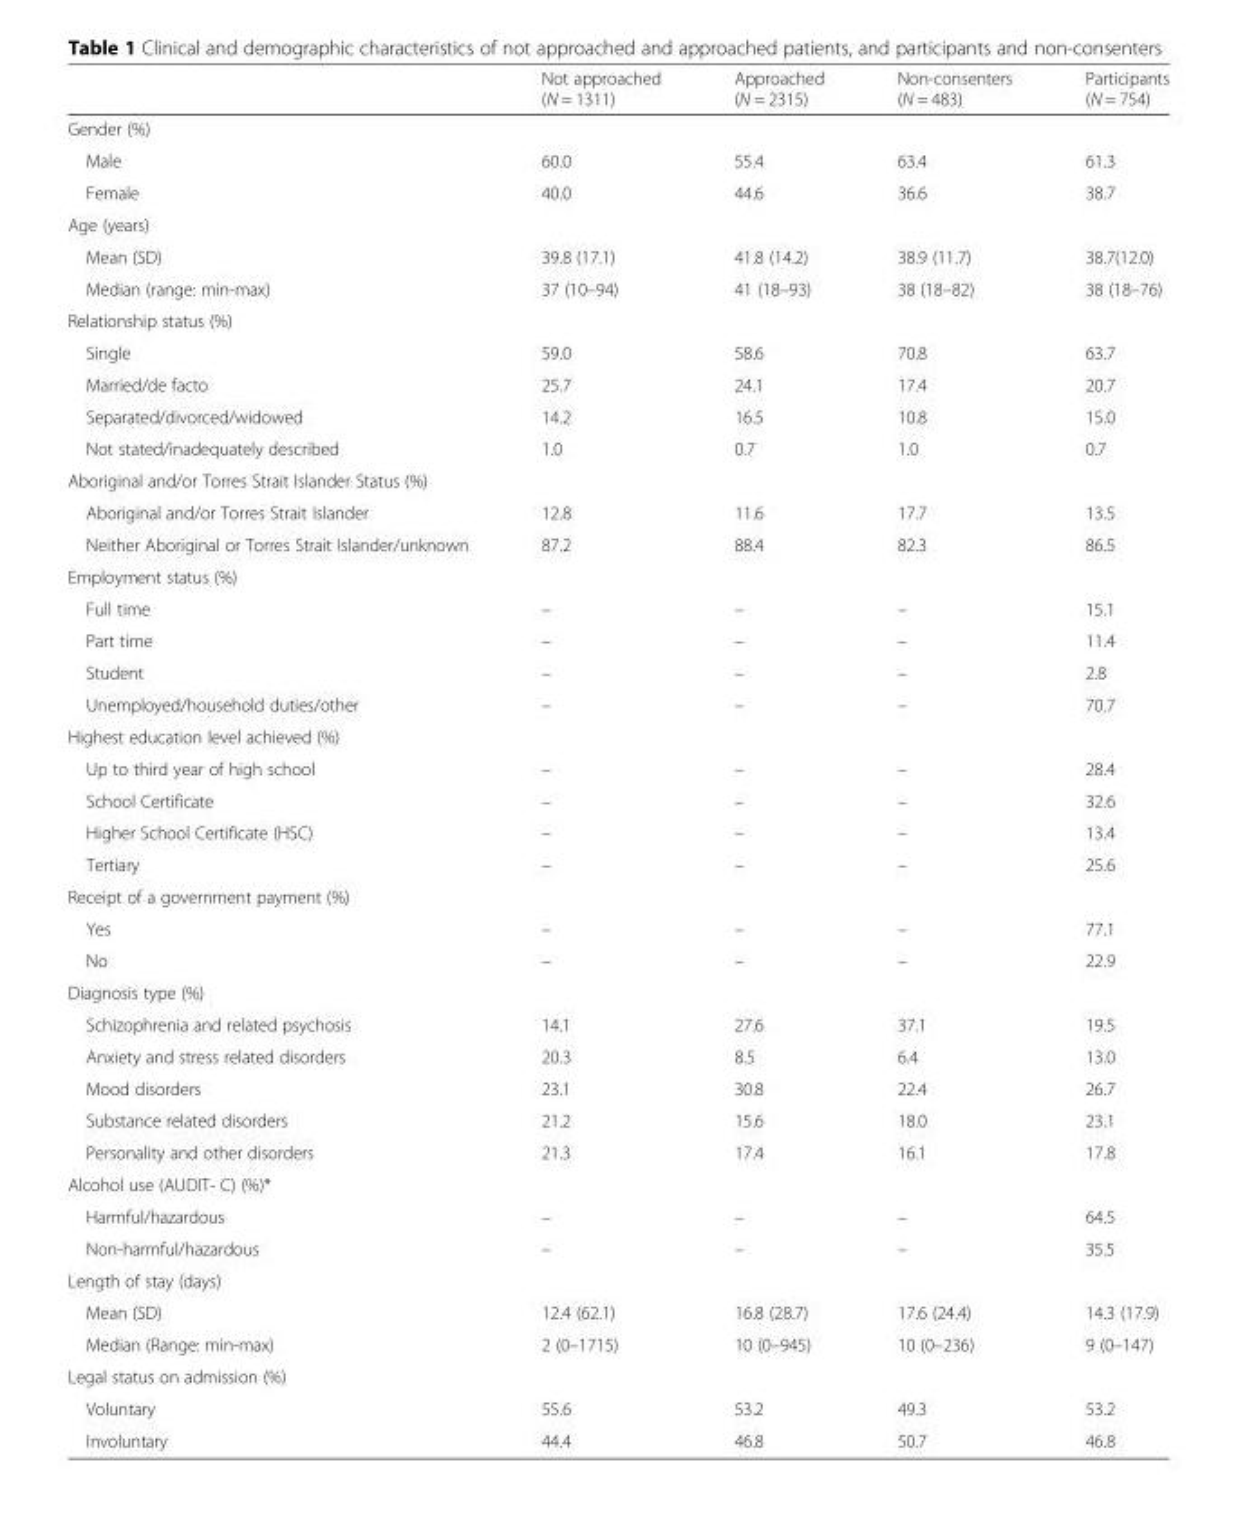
<table><thead><tr><td></td><td>Not approached (N = 1311)</td><td>Approached (N = 2315)</td><td>Non-consenters (N = 483)</td><td>Participants (N = 754)</td></tr></thead><tbody><tr><td colspan="5">Gender (%)</td></tr><tr><td>Male</td><td>60.0</td><td>55.4</td><td>63.4</td><td>61.3</td></tr><tr><td>Female</td><td>40.0</td><td>44.6</td><td>36.6</td><td>38.7</td></tr><tr><td colspan="5">Age (years)</td></tr><tr><td>Mean (SD)</td><td>39.8 (17.1)</td><td>41.8 (14.2)</td><td>38.9 (11.7)</td><td>38.7(12.0)</td></tr><tr><td>Median (range: min-max)</td><td>37 (10–94)</td><td>41 (18–93)</td><td>38 (18–82)</td><td>38 (18–76)</td></tr><tr><td colspan="5">Relationship status (%)</td></tr><tr><td>Single</td><td>59.0</td><td>58.6</td><td>70.8</td><td>63.7</td></tr><tr><td>Married/de facto</td><td>25.7</td><td>24.1</td><td>17.4</td><td>20.7</td></tr><tr><td>Separated/divorced/widowed</td><td>14.2</td><td>16.5</td><td>10.8</td><td>15.0</td></tr><tr><td>Not stated/inadequately described</td><td>1.0</td><td>0.7</td><td>1.0</td><td>0.7</td></tr><tr><td colspan="5">Aboriginal and/or Torres Strait Islander Status (%)</td></tr><tr><td>Aboriginal and/or Torres Strait Islander</td><td>12.8</td><td>11.6</td><td>17.7</td><td>13.5</td></tr><tr><td>Neither Aboriginal or Torres Strait Islander/unknown</td><td>87.2</td><td>88.4</td><td>82.3</td><td>86.5</td></tr><tr><td colspan="5">Employment status (%)</td></tr><tr><td>Full time</td><td>–</td><td>–</td><td>–</td><td>15.1</td></tr><tr><td>Part time</td><td>–</td><td>–</td><td>–</td><td>11.4</td></tr><tr><td>Student</td><td>–</td><td>–</td><td>–</td><td>2.8</td></tr><tr><td>Unemployed/household duties/other</td><td>–</td><td>–</td><td>–</td><td>70.7</td></tr><tr><td colspan="5">Highest education level achieved (%)</td></tr><tr><td>Up to third year of high school</td><td>–</td><td>–</td><td>–</td><td>28.4</td></tr><tr><td>School Certificate</td><td>–</td><td>–</td><td>–</td><td>32.6</td></tr><tr><td>Higher School Certificate (HSC)</td><td>–</td><td>–</td><td>–</td><td>13.4</td></tr><tr><td>Tertiary</td><td>–</td><td>–</td><td>–</td><td>25.6</td></tr><tr><td colspan="5">Receipt of a government payment (%)</td></tr><tr><td>Yes</td><td>–</td><td>–</td><td>–</td><td>77.1</td></tr><tr><td>No</td><td>–</td><td>–</td><td>–</td><td>22.9</td></tr><tr><td colspan="5">Diagnosis type (%)</td></tr><tr><td>Schizophrenia and related psychosis</td><td>14.1</td><td>27.6</td><td>37.1</td><td>19.5</td></tr><tr><td>Anxiety and stress related disorders</td><td>20.3</td><td>8.5</td><td>6.4</td><td>13.0</td></tr><tr><td>Mood disorders</td><td>23.1</td><td>30.8</td><td>22.4</td><td>26.7</td></tr><tr><td>Substance related disorders</td><td>21.2</td><td>15.6</td><td>18.0</td><td>23.1</td></tr><tr><td>Personality and other disorders</td><td>21.3</td><td>17.4</td><td>16.1</td><td>17.8</td></tr><tr><td colspan="5">Alcohol use (AUDIT- C) (%)*</td></tr><tr><td>Harmful/hazardous</td><td>–</td><td>–</td><td>–</td><td>64.5</td></tr><tr><td>Non-harmful/hazardous</td><td>–</td><td>–</td><td>–</td><td>35.5</td></tr><tr><td colspan="5">Length of stay (days)</td></tr><tr><td>Mean (SD)</td><td>12.4 (62.1)</td><td>16.8 (28.7)</td><td>17.6 (24.4)</td><td>14.3 (17.9)</td></tr><tr><td>Median (Range: min-max)</td><td>2 (0–1715)</td><td>10 (0–945)</td><td>10 (0–236)</td><td>9 (0–147)</td></tr><tr><td colspan="5">Legal status on admission (%)</td></tr><tr><td>Voluntary</td><td>55.6</td><td>53.2</td><td>49.3</td><td>53.2</td></tr><tr><td>Involuntary</td><td>44.4</td><td>46.8</td><td>50.7</td><td>46.8</td></tr></tbody></table>